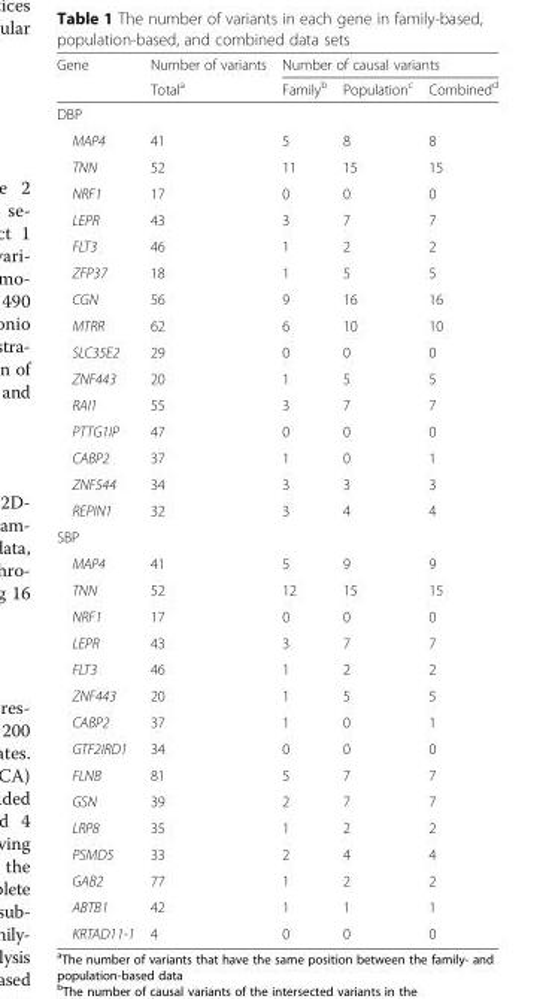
<table><thead><tr><td rowspan="2">Gene</td><td rowspan="2">Number of variants Total<sup>a</sup></td><td colspan="3">Number of causal variants</td></tr><tr><td>Family<sup>b</sup></td><td>Population<sup>c</sup></td><td>Combined<sup>d</sup></td></tr></thead><tbody><tr><td colspan="5">DBP</td></tr><tr><td>MAP4</td><td>41</td><td>5</td><td>8</td><td>8</td></tr><tr><td>TNN</td><td>52</td><td>11</td><td>15</td><td>15</td></tr><tr><td>NRF1</td><td>17</td><td>0</td><td>0</td><td>0</td></tr><tr><td>LEPR</td><td>43</td><td>3</td><td>7</td><td>7</td></tr><tr><td>FLT3</td><td>46</td><td>1</td><td>2</td><td>2</td></tr><tr><td>ZFP37</td><td>18</td><td>1</td><td>5</td><td>5</td></tr><tr><td>CGN</td><td>56</td><td>9</td><td>16</td><td>16</td></tr><tr><td>MTRR</td><td>62</td><td>6</td><td>10</td><td>10</td></tr><tr><td>SLC35E2</td><td>29</td><td>0</td><td>0</td><td>0</td></tr><tr><td>ZNF443</td><td>20</td><td>1</td><td>5</td><td>5</td></tr><tr><td>RAI1</td><td>55</td><td>3</td><td>7</td><td>7</td></tr><tr><td>PTTG1IP</td><td>47</td><td>0</td><td>0</td><td>0</td></tr><tr><td>CABP2</td><td>37</td><td>1</td><td>0</td><td>1</td></tr><tr><td>ZNF544</td><td>34</td><td>3</td><td>3</td><td>3</td></tr><tr><td>REPIN1</td><td>32</td><td>3</td><td>4</td><td>4</td></tr><tr><td colspan="5">SBP</td></tr><tr><td>MAP4</td><td>41</td><td>5</td><td>9</td><td>9</td></tr><tr><td>TNN</td><td>52</td><td>12</td><td>15</td><td>15</td></tr><tr><td>NRF1</td><td>17</td><td>0</td><td>0</td><td>0</td></tr><tr><td>LEPR</td><td>43</td><td>3</td><td>7</td><td>7</td></tr><tr><td>FLT3</td><td>46</td><td>1</td><td>2</td><td>2</td></tr><tr><td>ZNF443</td><td>20</td><td>1</td><td>5</td><td>5</td></tr><tr><td>CABP2</td><td>37</td><td>1</td><td>0</td><td>1</td></tr><tr><td>GTF2IRD1</td><td>34</td><td>0</td><td>0</td><td>0</td></tr><tr><td>FLNB</td><td>81</td><td>5</td><td>7</td><td>7</td></tr><tr><td>GSN</td><td>39</td><td>2</td><td>7</td><td>7</td></tr><tr><td>LRP8</td><td>35</td><td>1</td><td>2</td><td>2</td></tr><tr><td>PSMD5</td><td>33</td><td>2</td><td>4</td><td>4</td></tr><tr><td>GAB2</td><td>77</td><td>1</td><td>2</td><td>2</td></tr><tr><td>ABTB1</td><td>42</td><td>1</td><td>1</td><td>1</td></tr><tr><td>KRTAD11-1</td><td>4</td><td>0</td><td>0</td><td>0</td></tr></tbody></table>